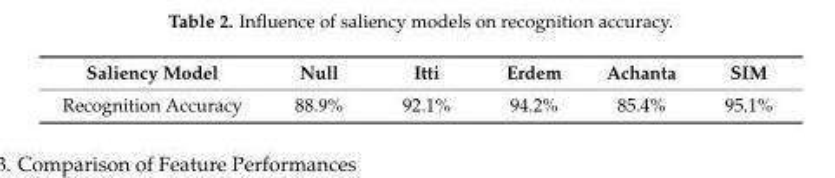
<table><thead><tr><td>Saliency Model</td><td>Null</td><td>Itti</td><td>Erdem</td><td>Achanta</td><td>SIM</td></tr></thead><tbody><tr><td>Recognition Accuracy</td><td>88.9%</td><td>92.1%</td><td>94.2%</td><td>85.4%</td><td>95.1%</td></tr></tbody></table>